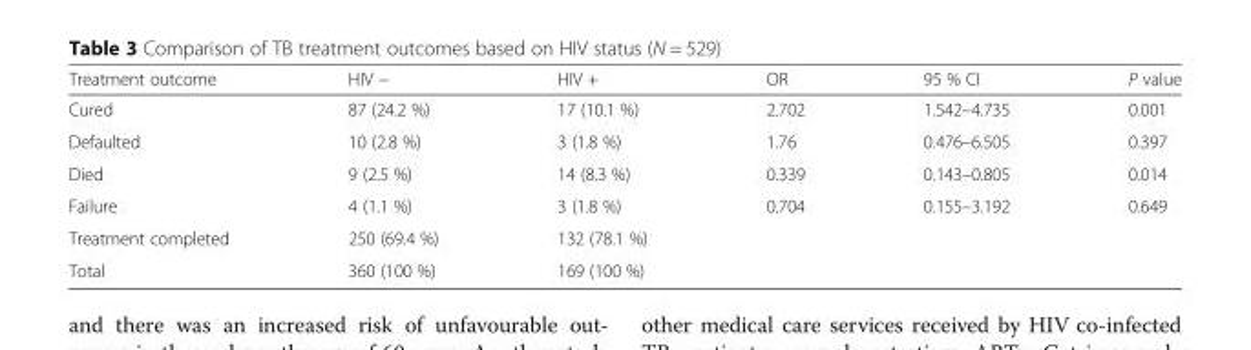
<table><thead><tr><td>Treatment outcome</td><td>HIV −</td><td>HIV +</td><td>OR</td><td>95 % CI</td><td>P value</td></tr></thead><tbody><tr><td>Cured</td><td>87 (24.2 %)</td><td>17 (10.1 %)</td><td>2.702</td><td>1.542–4.735</td><td>0.001</td></tr><tr><td>Defaulted</td><td>10 (2.8 %)</td><td>3 (1.8 %)</td><td>1.76</td><td>0.476–6.505</td><td>0.397</td></tr><tr><td>Died</td><td>9 (2.5 %)</td><td>14 (8.3 %)</td><td>0.339</td><td>0.143–0.805</td><td>0.014</td></tr><tr><td>Failure</td><td>4 (1.1 %)</td><td>3 (1.8 %)</td><td>0.704</td><td>0.155–3.192</td><td>0.649</td></tr><tr><td>Treatment completed</td><td>250 (69.4 %)</td><td>132 (78.1 %)</td><td></td><td></td><td></td></tr><tr><td>Total</td><td>360 (100 %)</td><td>169 (100 %)</td><td></td><td></td><td></td></tr></tbody></table>